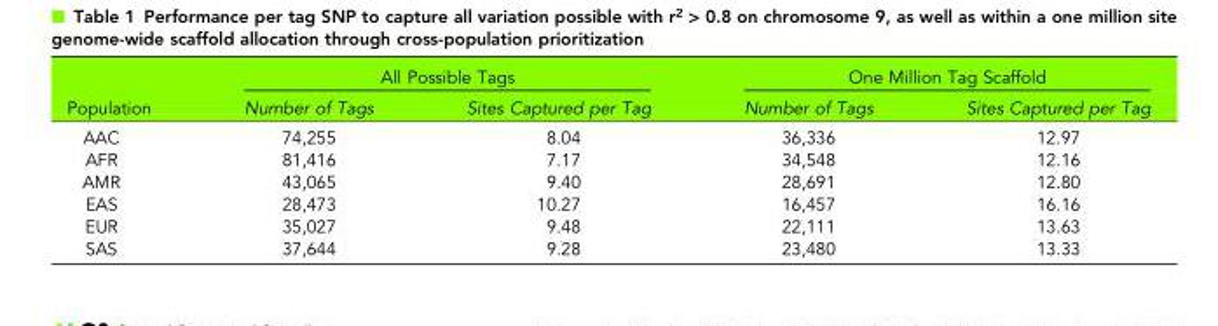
<table><thead><tr><td rowspan="2">Population</td><td colspan="2">All Possible Tags</td><td colspan="2">One Million Tag Scaffold</td></tr><tr><td>Number of Tags</td><td>Sites Captured per Tag</td><td>Number of Tags</td><td>Sites Captured per Tag</td></tr></thead><tbody><tr><td>AAC</td><td>74,255</td><td>8.04</td><td>36,336</td><td>12.97</td></tr><tr><td>AFR</td><td>81,416</td><td>7.17</td><td>34,548</td><td>12.16</td></tr><tr><td>AMR</td><td>43,065</td><td>9.40</td><td>28,691</td><td>12.80</td></tr><tr><td>EAS</td><td>28,473</td><td>10.27</td><td>16,457</td><td>16.16</td></tr><tr><td>EUR</td><td>35,027</td><td>9.48</td><td>22,111</td><td>13.63</td></tr><tr><td>SAS</td><td>37,644</td><td>9.28</td><td>23,480</td><td>13.33</td></tr></tbody></table>